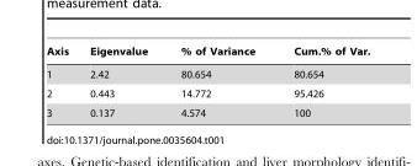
<table><thead><tr><td>Axis</td><td>Eigenvalue</td><td>% of Variance</td><td>Cum.% of Var.</td></tr></thead><tbody><tr><td>1</td><td>2.42</td><td>80.654</td><td>80.654</td></tr><tr><td>2</td><td>0.443</td><td>14.772</td><td>95.426</td></tr><tr><td>3</td><td>0.137</td><td>4.574</td><td>100</td></tr></tbody></table>